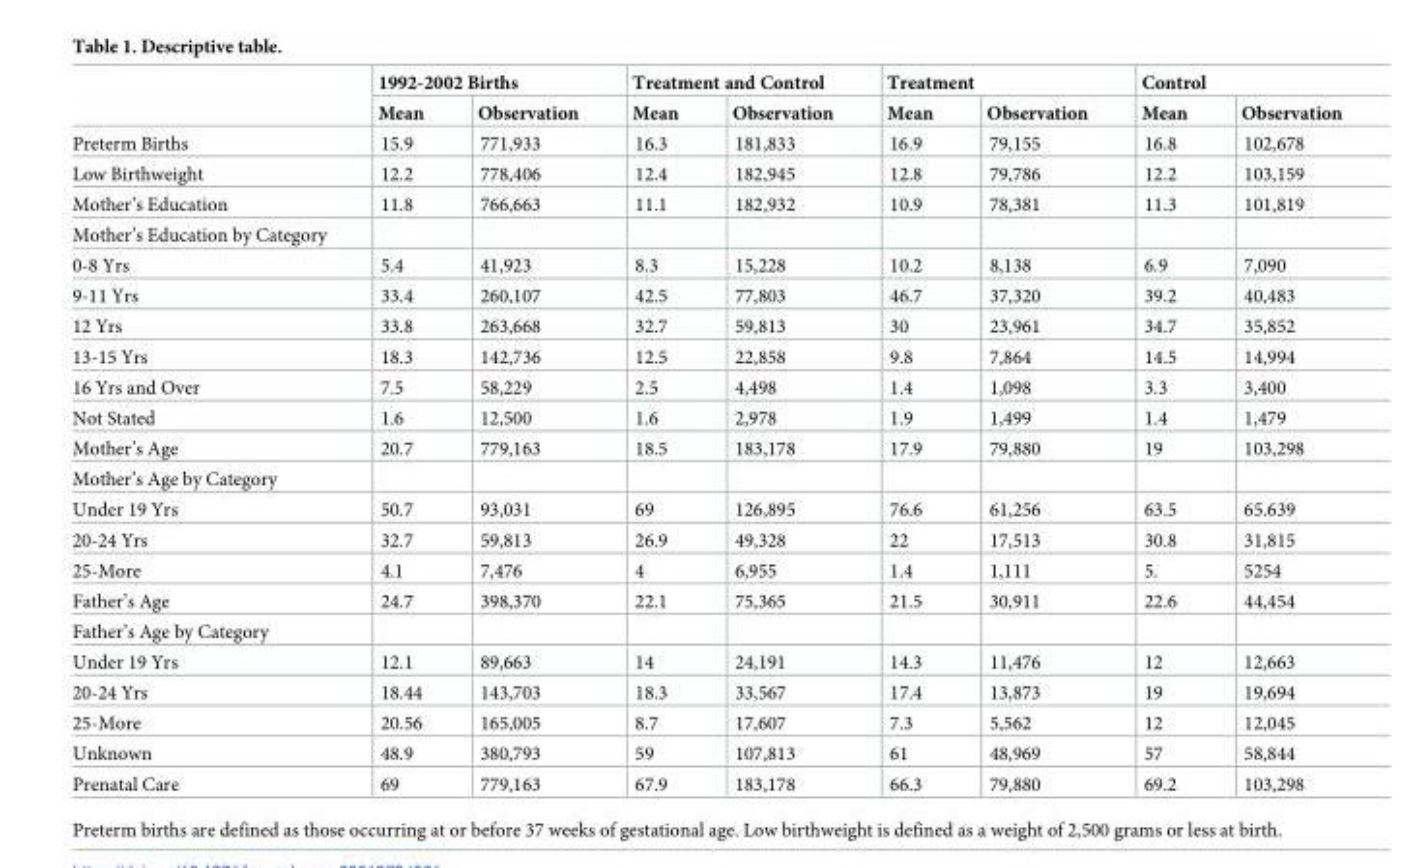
<table><thead><tr><td rowspan="2"></td><td colspan="2">1992-2002 Births</td><td colspan="2">Treatment and Control</td><td colspan="2">Treatment</td><td colspan="2">Control</td></tr><tr><td>Mean</td><td>Observation</td><td>Mean</td><td>Observation</td><td>Mean</td><td>Observation</td><td>Mean</td><td>Observation</td></tr></thead><tbody><tr><td>Preterm Births</td><td>15.9</td><td>771,933</td><td>16.3</td><td>181,833</td><td>16.9</td><td>79,155</td><td>16.8</td><td>102,678</td></tr><tr><td>Low Birthweight</td><td>12.2</td><td>778,406</td><td>12.4</td><td>182,945</td><td>12.8</td><td>79,786</td><td>12.2</td><td>103,159</td></tr><tr><td>Mother’s Education</td><td>11.8</td><td>766,663</td><td>11.1</td><td>182,932</td><td>10.9</td><td>78,381</td><td>11.3</td><td>101,819</td></tr><tr><td colspan="9">Mother’s Education by Category</td></tr><tr><td>0-8 Yrs</td><td>5.4</td><td>41,923</td><td>8.3</td><td>15,228</td><td>10.2</td><td>8,138</td><td>6.9</td><td>7,090</td></tr><tr><td>9-11 Yrs</td><td>33.4</td><td>260,107</td><td>42.5</td><td>77,803</td><td>46.7</td><td>37,320</td><td>39.2</td><td>40,483</td></tr><tr><td>12 Yrs</td><td>33.8</td><td>263,668</td><td>32.7</td><td>59,813</td><td>30</td><td>23,961</td><td>34.7</td><td>35,852</td></tr><tr><td>13-15 Yrs</td><td>18.3</td><td>142,736</td><td>12.5</td><td>22,858</td><td>9.8</td><td>7,864</td><td>14.5</td><td>14,994</td></tr><tr><td>16 Yrs and Over</td><td>7.5</td><td>58,229</td><td>2.5</td><td>4,498</td><td>1.4</td><td>1,098</td><td>3.3</td><td>3,400</td></tr><tr><td>Not Stated</td><td>1.6</td><td>12,500</td><td>1.6</td><td>2,978</td><td>1.9</td><td>1,499</td><td>1.4</td><td>1,479</td></tr><tr><td>Mother’s Age</td><td>20.7</td><td>779,163</td><td>18.5</td><td>183,178</td><td>17.9</td><td>79,880</td><td>19</td><td>103,298</td></tr><tr><td colspan="9">Mother’s Age by Category</td></tr><tr><td>Under 19 Yrs</td><td>50.7</td><td>93,031</td><td>69</td><td>126,895</td><td>76.6</td><td>61,256</td><td>63.5</td><td>65.639</td></tr><tr><td>20-24 Yrs</td><td>32.7</td><td>59,813</td><td>26.9</td><td>49,328</td><td>22</td><td>17,513</td><td>30.8</td><td>31,815</td></tr><tr><td>25-More</td><td>4.1</td><td>7,476</td><td>4</td><td>6,955</td><td>1.4</td><td>1,111</td><td>5.</td><td>5254</td></tr><tr><td>Father’s Age</td><td>24.7</td><td>398,370</td><td>22.1</td><td>75,365</td><td>21.5</td><td>30,911</td><td>22.6</td><td>44,454</td></tr><tr><td colspan="9">Father’s Age by Category</td></tr><tr><td>Under 19 Yrs</td><td>12.1</td><td>89,663</td><td>14</td><td>24,191</td><td>14.3</td><td>11,476</td><td>12</td><td>12,663</td></tr><tr><td>20-24 Yrs</td><td>18.44</td><td>143,703</td><td>18.3</td><td>33,567</td><td>17.4</td><td>13,873</td><td>19</td><td>19,694</td></tr><tr><td>25-More</td><td>20.56</td><td>165,005</td><td>8.7</td><td>17,607</td><td>7.3</td><td>5,562</td><td>12</td><td>12,045</td></tr><tr><td>Unknown</td><td>48.9</td><td>380,793</td><td>59</td><td>107,813</td><td>61</td><td>48,969</td><td>57</td><td>58,844</td></tr><tr><td>Prenatal Care</td><td>69</td><td>779,163</td><td>67.9</td><td>183,178</td><td>66.3</td><td>79,880</td><td>69.2</td><td>103,298</td></tr></tbody></table>